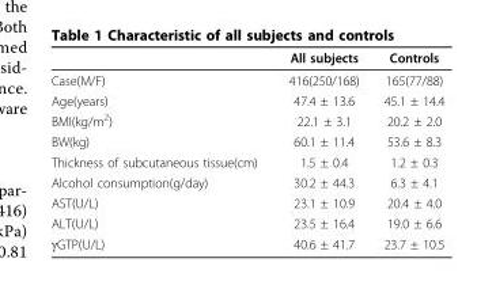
<table><thead><tr><td></td><td>All subjects</td><td>Controls</td></tr></thead><tbody><tr><td>Case(M/F)</td><td>416(250/168)</td><td>165(77/88)</td></tr><tr><td>Age(years)</td><td>47.4 ± 13.6</td><td>45.1 ± 14.4</td></tr><tr><td>BMI(kg/m<sup>2</sup>)</td><td>22.1 ± 3.1</td><td>20.2 ± 2.0</td></tr><tr><td>BW(kg)</td><td>60.1 ± 11.4</td><td>53.6 ± 8.3</td></tr><tr><td>Thickness of subcutaneous tissue(cm)</td><td>1.5 ± 0.4</td><td>1.2 ± 0.3</td></tr><tr><td>Alcohol consumption(g/day)</td><td>30.2 ± 44.3</td><td>6.3 ± 4.1</td></tr><tr><td>AST(U/L)</td><td>23.1 ± 10.9</td><td>20.4 ± 4.0</td></tr><tr><td>ALT(U/L)</td><td>23.5 ± 16.4</td><td>19.0 ± 6.6</td></tr><tr><td>γGTP(U/L)</td><td>40.6 ± 41.7</td><td>23.7 ± 10.5</td></tr></tbody></table>